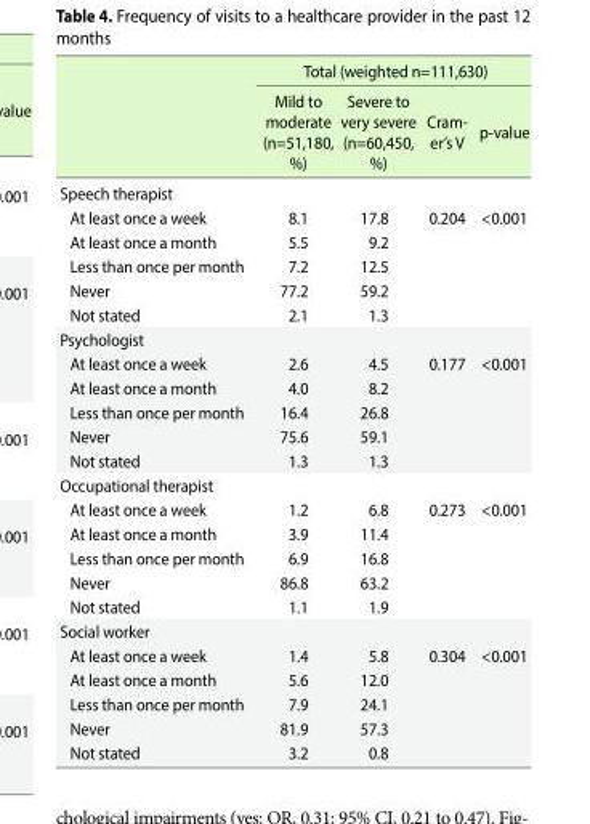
<table><thead><tr><td rowspan="2"></td><td colspan="4">Total (weighted n=111,630)</td></tr><tr><td>Mild to moderate (n=51,180, %)</td><td>Severe to very severe (n=60,450, %)</td><td>Cram- er’s V</td><td>p-value</td></tr></thead><tbody><tr><td colspan="5">Speech therapist</td></tr><tr><td>At least once a week</td><td>8.1</td><td>17.8</td><td>0.204</td><td>&lt;0.001</td></tr><tr><td>At least once a month</td><td>5.5</td><td>9.2</td><td></td><td></td></tr><tr><td>Less than once per month</td><td>7.2</td><td>12.5</td><td></td><td></td></tr><tr><td>Never</td><td>77.2</td><td>59.2</td><td></td><td></td></tr><tr><td>Not stated</td><td>2.1</td><td>1.3</td><td></td><td></td></tr><tr><td colspan="5">Psychologist</td></tr><tr><td>At least once a week</td><td>2.6</td><td>4.5</td><td>0.177</td><td>&lt;0.001</td></tr><tr><td>At least once a month</td><td>4.0</td><td>8.2</td><td></td><td></td></tr><tr><td>Less than once per month</td><td>16.4</td><td>26.8</td><td></td><td></td></tr><tr><td>Never</td><td>75.6</td><td>59.1</td><td></td><td></td></tr><tr><td>Not stated</td><td>1.3</td><td>1.3</td><td></td><td></td></tr><tr><td colspan="5">Occupational therapist</td></tr><tr><td>At least once a week</td><td>1.2</td><td>6.8</td><td>0.273</td><td>&lt;0.001</td></tr><tr><td>At least once a month</td><td>3.9</td><td>11.4</td><td></td><td></td></tr><tr><td>Less than once per month</td><td>6.9</td><td>16.8</td><td></td><td></td></tr><tr><td>Never</td><td>86.8</td><td>63.2</td><td></td><td></td></tr><tr><td>Not stated</td><td>1.1</td><td>1.9</td><td></td><td></td></tr><tr><td colspan="5">Social worker</td></tr><tr><td>At least once a week</td><td>1.4</td><td>5.8</td><td>0.304</td><td>&lt;0.001</td></tr><tr><td>At least once a month</td><td>5.6</td><td>12.0</td><td></td><td></td></tr><tr><td>Less than once per month</td><td>7.9</td><td>24.1</td><td></td><td></td></tr><tr><td>Never</td><td>81.9</td><td>57.3</td><td></td><td></td></tr><tr><td>Not stated</td><td>3.2</td><td>0.8</td><td></td><td></td></tr></tbody></table>